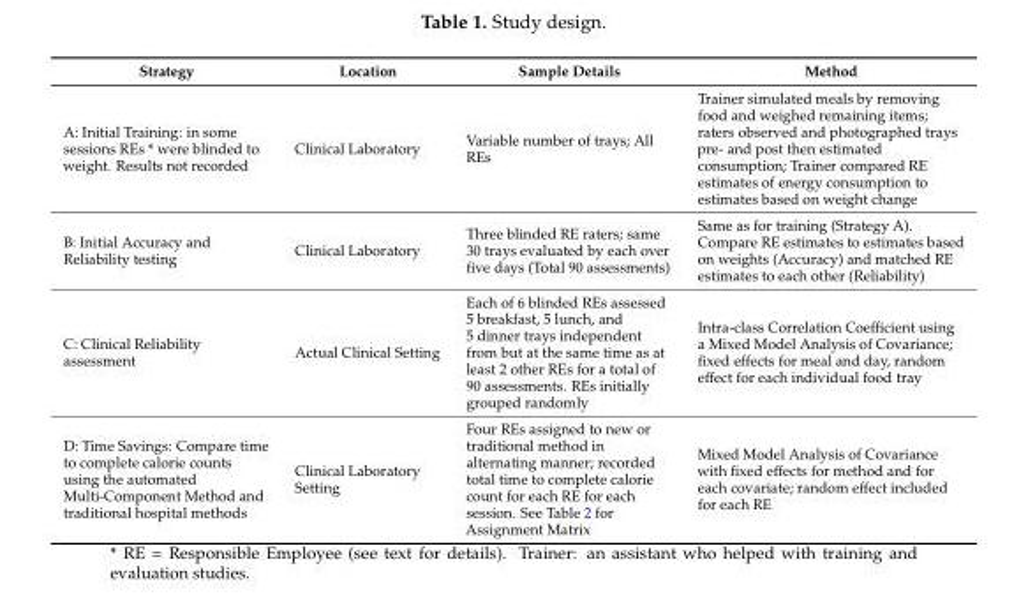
<table><thead><tr><td>Strategy</td><td>Location</td><td>Sample Details</td><td>Method</td></tr></thead><tbody><tr><td>A: Initial Training: in some sessions REs * were blinded to weight. Results not recorded</td><td>Clinical Laboratory</td><td>Variable number of trays; All REs</td><td>Trainer simulated meals by removing food and weighed remaining items; raters observed and photographed trays pre- and post then estimated consumption; Trainer compared RE estimates of energy consumption to estimates based on weight change</td></tr><tr><td>B: Initial Accuracy and Reliability testing</td><td>Clinical Laboratory</td><td>Three blinded RE raters; same 30 trays evaluated by each over five days (Total 90 assessments)</td><td>Same as for training (Strategy A). Compare RE estimates to estimates based on weights (Accuracy) and matched RE estimates to each other (Reliability)</td></tr><tr><td>C: Clinical Reliability assessment</td><td>Actual Clinical Setting</td><td>Each of 6 blinded REs assessed 5 breakfast, 5 lunch, and 5 dinner trays independent from but at the same time as at least 2 other REs for a total of 90 assessments. REs initially grouped randomly</td><td>Intra-class Correlation Coefficient using a Mixed Model Analysis of Covariance; fixed effects for meal and day, random effect for each individual food tray</td></tr><tr><td>D: Time Savings: Compare time to complete calorie counts using the automated Multi-Component Method and traditional hospital methods</td><td>Clinical Laboratory Setting</td><td>Four REs assigned to new or traditional method in alternating manner; recorded total time to complete calorie count for each RE for each session. See Table 2 for Assignment Matrix</td><td>Mixed Model Analysis of Covariance with fixed effects for method and for each covariate; random effect included for each RE</td></tr></tbody></table>